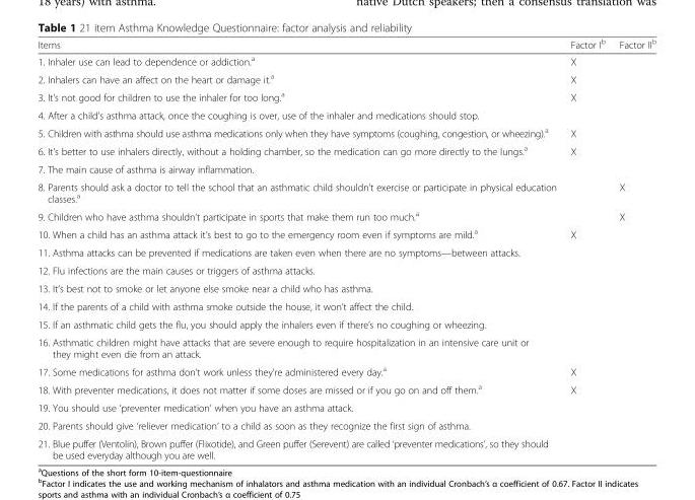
<table><thead><tr><td>Items</td><td>Factor I<sup>b</sup></td><td>Factor II<sup>b</sup></td></tr></thead><tbody><tr><td>1. Inhaler use can lead to dependence or addiction.<sup>a</sup></td><td>X</td><td></td></tr><tr><td>2. Inhalers can have an affect on the heart or damage it.<sup>a</sup></td><td>X</td><td></td></tr><tr><td>3. It’s not good for children to use the inhaler for too long.<sup>a</sup></td><td>X</td><td></td></tr><tr><td colspan="3">4. After a child’s asthma attack, once the coughing is over, use of the inhaler and medications should stop.</td></tr><tr><td>5. Children with asthma should use asthma medications only when they have symptoms (coughing, congestion, or wheezing).<sup>a</sup></td><td>X</td><td></td></tr><tr><td>6. It’s better to use inhalers directly, without a holding chamber, so the medication can go more directly to the lungs.<sup>a</sup></td><td>X</td><td></td></tr><tr><td colspan="3">7. The main cause of asthma is airway inflammation.</td></tr><tr><td>8. Parents should ask a doctor to tell the school that an asthmatic child shouldn’t exercise or participate in physical education classes.<sup>a</sup></td><td></td><td>X</td></tr><tr><td>9. Children who have asthma shouldn’t participate in sports that make them run too much.<sup>a</sup></td><td></td><td>X</td></tr><tr><td>10. When a child has an asthma attack it’s best to go to the emergency room even if symptoms are mild.<sup>a</sup></td><td>X</td><td></td></tr><tr><td colspan="3">11. Asthma attacks can be prevented if medications are taken even when there are no symptoms—between attacks.</td></tr><tr><td colspan="3">12. Flu infections are the main causes or triggers of asthma attacks.</td></tr><tr><td colspan="3">13. It’s best not to smoke or let anyone else smoke near a child who has asthma.</td></tr><tr><td colspan="3">14. If the parents of a child with asthma smoke outside the house, it won’t affect the child.</td></tr><tr><td colspan="3">15. If an asthmatic child gets the flu, you should apply the inhalers even if there’s no coughing or wheezing.</td></tr><tr><td colspan="3">16. Asthmatic children might have attacks that are severe enough to require hospitalization in an intensive care unit or they might even die from an attack.</td></tr><tr><td>17. Some medications for asthma don’t work unless they’re administered every day.<sup>a</sup></td><td>X</td><td></td></tr><tr><td>18. With preventer medications, it does not matter if some doses are missed or if you go on and off them.<sup>a</sup></td><td>X</td><td></td></tr><tr><td colspan="3">19. You should use ‘preventer medication’ when you have an asthma attack.</td></tr><tr><td colspan="3">20. Parents should give ‘reliever medication’ to a child as soon as they recognize the first sign of asthma.</td></tr><tr><td>21. Blue puffer (Ventolin), Brown puffer (Flixotide), and Green puffer (Serevent) are called ‘preventer medications’, so they should be used everyday although you are well.</td><td></td><td></td></tr></tbody></table>